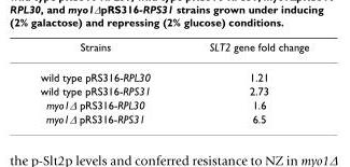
<table><thead><tr><td>Strains</td><td>SLT2 gene fold change</td></tr></thead><tbody><tr><td>wild type pRS316-RPL30</td><td>1.21</td></tr><tr><td>wild type pRS316-RPS31</td><td>2.73</td></tr><tr><td>myo1∆ pRS316-RPL30</td><td>1.6</td></tr><tr><td>myo1∆ pRS316-RPS31</td><td>6.5</td></tr></tbody></table>